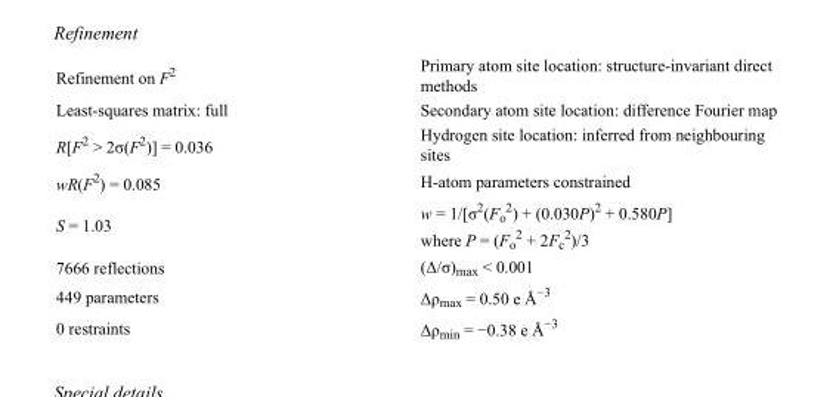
<table><tbody><tr><td>Refinement on F<sup>2</sup></td><td>Primary atom site location: structure-invariant direct methods</td></tr><tr><td>Least-squares matrix: full</td><td>Secondary atom site location: difference Fourier map</td></tr><tr><td>R[F<sup>2</sup> &gt; 2σ(F<sup>2</sup>)] = 0.036</td><td>Hydrogen site location: inferred from neighbouring sites</td></tr><tr><td>wR(F<sup>2</sup>) = 0.085</td><td>H-atom parameters constrained</td></tr><tr><td>S = 1.03</td><td>w = 1/[σ<sup>2</sup>(F<sub>o</sub> <sup>2</sup>) + (0.030P)<sup>2</sup> + 0.580P] where P = (F<sub>o</sub> <sup>2</sup> + 2F<sub>c</sub> <sup>2</sup>)/3</td></tr><tr><td>7666 reflections</td><td>(Δ/σ)<sub>max</sub> &lt; 0.001</td></tr><tr><td>449 parameters</td><td>Δρ<sub>max</sub> = 0.50 e Å<sup>−3</sup></td></tr><tr><td>0 restraints</td><td>Δρ<sub>min</sub> = −0.38 e Å<sup>−3</sup></td></tr></tbody></table>